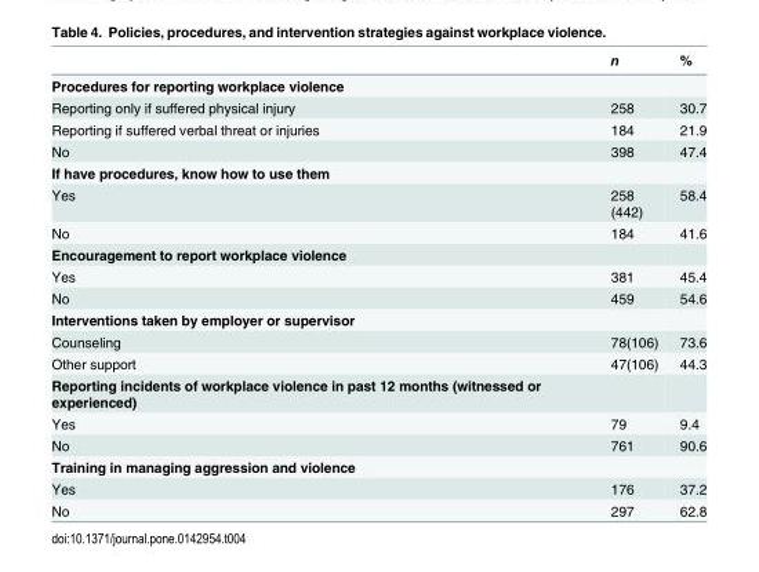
<table><thead><tr><td></td><td>n</td><td>%</td></tr></thead><tbody><tr><td colspan="3">Procedures for reporting workplace violence</td></tr><tr><td>Reporting only if suffered physical injury</td><td>258</td><td>30.7</td></tr><tr><td>Reporting if suffered verbal threat or injuries</td><td>184</td><td>21.9</td></tr><tr><td>No</td><td>398</td><td>47.4</td></tr><tr><td colspan="3">If have procedures, know how to use them</td></tr><tr><td>Yes</td><td>258 (442)</td><td>58.4</td></tr><tr><td>No</td><td>184</td><td>41.6</td></tr><tr><td colspan="3">Encouragement to report workplace violence</td></tr><tr><td>Yes</td><td>381</td><td>45.4</td></tr><tr><td>No</td><td>459</td><td>54.6</td></tr><tr><td colspan="3">Interventions taken by employer or supervisor</td></tr><tr><td>Counseling</td><td>78(106)</td><td>73.6</td></tr><tr><td>Other support</td><td>47(106)</td><td>44.3</td></tr><tr><td colspan="3">Reporting incidents of workplace violence in past 12 months (witnessed or experienced)</td></tr><tr><td>Yes</td><td>79</td><td>9.4</td></tr><tr><td>No</td><td>761</td><td>90.6</td></tr><tr><td colspan="3">Training in managing aggression and violence</td></tr><tr><td>Yes</td><td>176</td><td>37.2</td></tr><tr><td>No</td><td>297</td><td>62.8</td></tr></tbody></table>